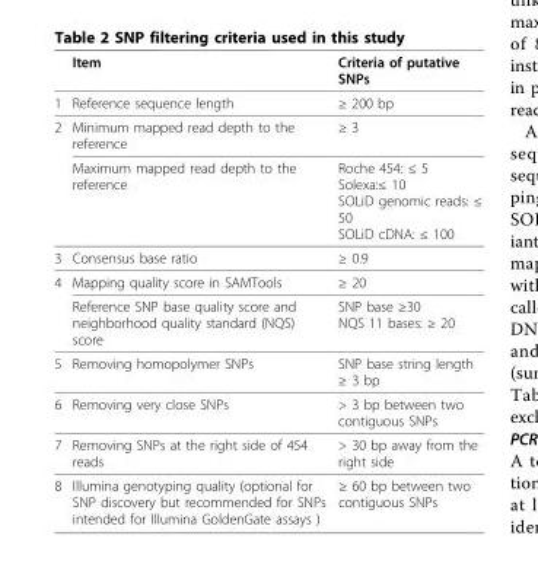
<table><thead><tr><td></td><td>Item</td><td>Criteria of putative SNPs</td></tr></thead><tbody><tr><td>1</td><td>Reference sequence length</td><td>≥ 200 bp</td></tr><tr><td rowspan="2">2</td><td>Minimum mapped read depth to the reference</td><td>≥ 3</td></tr><tr><td>Maximum mapped read depth to the reference</td><td>Roche 454: ≤ 5 Solexa:≤ 10 SOLiD genomic reads: ≤ 50 SOLiD cDNA: ≤ 100</td></tr><tr><td>3</td><td>Consensus base ratio</td><td>≥ 0.9</td></tr><tr><td rowspan="2">4</td><td>Mapping quality score in SAMTools</td><td>≥ 20</td></tr><tr><td>Reference SNP base quality score and neighborhood quality standard (NQS) score</td><td>SNP base ≥30 NQS 11 bases: ≥ 20</td></tr><tr><td>5</td><td>Removing homopolymer SNPs</td><td>SNP base string length ≥ 3 bp</td></tr><tr><td>6</td><td>Removing very close SNPs</td><td>&gt; 3 bp between two contiguous SNPs</td></tr><tr><td>7</td><td>Removing SNPs at the right side of 454 reads</td><td>&gt; 30 bp away from the right side</td></tr><tr><td>8</td><td>Illumina genotyping quality (optional for SNP discovery but recommended for SNPs intended for Illumina GoldenGate assays )</td><td>≥ 60 bp between two contiguous SNPs</td></tr></tbody></table>